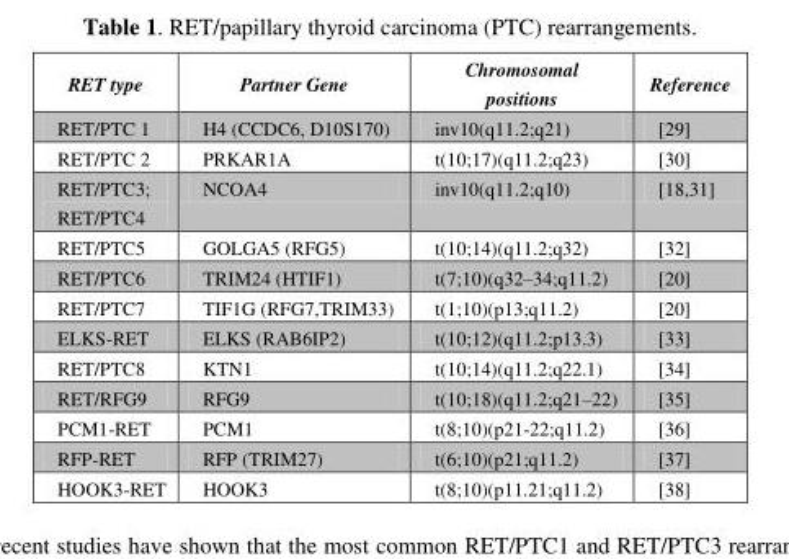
<table><thead><tr><td>RET type</td><td>Partner Gene</td><td>Chromosomal positions</td><td>Reference</td></tr></thead><tbody><tr><td>RET/PTC 1</td><td>H4 (CCDC6, D10S170)</td><td>inv10(q11.2;q21)</td><td>[29]</td></tr><tr><td>RET/PTC 2</td><td>PRKAR1A</td><td>t(10;17)(q11.2;q23)</td><td>[30]</td></tr><tr><td>RET/PTC3; RET/PTC4</td><td>NCOA4</td><td>inv10(q11.2;q10)</td><td>[18,31]</td></tr><tr><td>RET/PTC5</td><td>GOLGA5 (RFG5)</td><td>t(10;14)(q11.2;q32)</td><td>[32]</td></tr><tr><td>RET/PTC6</td><td>TRIM24 (HTIF1)</td><td>t(7;10)(q32–34;q11.2)</td><td>[20]</td></tr><tr><td>RET/PTC7</td><td>TIF1G (RFG7,TRIM33)</td><td>t(1;10)(p13;q11.2)</td><td>[20]</td></tr><tr><td>ELKS-RET</td><td>ELKS (RAB6IP2)</td><td>t(10;12)(q11.2;p13.3)</td><td>[33]</td></tr><tr><td>RET/PTC8</td><td>KTN1</td><td>t(10;14)(q11.2;q22.1)</td><td>[34]</td></tr><tr><td>RET/RFG9</td><td>RFG9</td><td>t(10;18)(q11.2;q21–22)</td><td>[35]</td></tr><tr><td>PCM1-RET</td><td>PCM1</td><td>t(8;10)(p21-22;q11.2)</td><td>[36]</td></tr><tr><td>RFP-RET</td><td>RFP (TRIM27)</td><td>t(6;10)(p21;q11.2)</td><td>[37]</td></tr><tr><td>HOOK3-RET</td><td>HOOK3</td><td>t(8;10)(p11.21;q11.2)</td><td>[38]</td></tr></tbody></table>